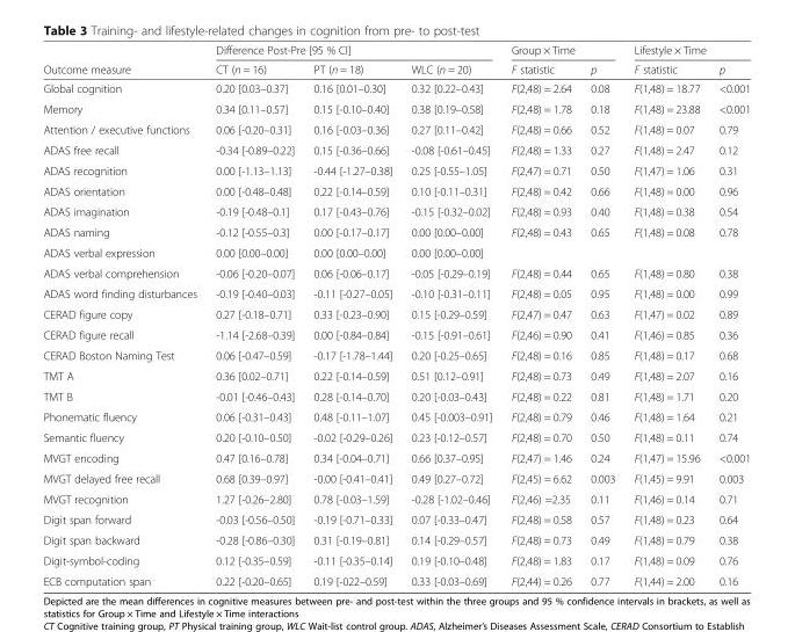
<table><thead><tr><td rowspan="2">Outcome measure</td><td colspan="3">Difference Post-Pre [95 % CI]</td><td colspan="2">Group × Time</td><td colspan="2">Lifestyle × Time</td></tr><tr><td>CT (n = 16)</td><td>PT (n = 18)</td><td>WLC (n = 20)</td><td>F statistic</td><td>p</td><td>F statistic</td><td>p</td></tr></thead><tbody><tr><td>Global cognition</td><td>0.20 [0.03–0.37]</td><td>0.16 [0.01–0.30]</td><td>0.32 [0.22–0.43]</td><td>F(2,48) = 2.64</td><td>0.08</td><td>F(1,48) = 18.77</td><td>&lt;0.001</td></tr><tr><td>Memory</td><td>0.34 [0.11–0.57]</td><td>0.15 [-0.10–0.40]</td><td>0.38 [0.19–0.58]</td><td>F(2,48) = 1.78</td><td>0.18</td><td>F(1,48) = 23.88</td><td>&lt;0.001</td></tr><tr><td>Attention / executive functions</td><td>0.06 [-0.20–0.31]</td><td>0.16 [-0.03–0.36]</td><td>0.27 [0.11–0.42]</td><td>F(2,48) = 0.66</td><td>0.52</td><td>F(1,48) = 0.07</td><td>0.79</td></tr><tr><td>ADAS free recall</td><td>-0.34 [-0.89–0.22]</td><td>0.15 [-0.36–0.66]</td><td>-0.08 [-0.61–0.45]</td><td>F(2,48) = 1.33</td><td>0.27</td><td>F(1,48) = 2.47</td><td>0.12</td></tr><tr><td>ADAS recognition</td><td>0.00 [-1.13–1.13]</td><td>-0.44 [-1.27–0.38]</td><td>0.25 [-0.55–1.05]</td><td>F(2,47) = 0.71</td><td>0.50</td><td>F(1,47) = 1.06</td><td>0.31</td></tr><tr><td>ADAS orientation</td><td>0.00 [-0.48–0.48]</td><td>0.22 [-0.14–0.59]</td><td>0.10 [-0.11–0.31]</td><td>F(2,48) = 0.42</td><td>0.66</td><td>F(1,48) = 0.00</td><td>0.96</td></tr><tr><td>ADAS imagination</td><td>-0.19 [-0.48–0.1]</td><td>0.17 [-0.43–0.76]</td><td>-0.15 [-0.32–0.02]</td><td>F(2,48) = 0.93</td><td>0.40</td><td>F(1,48) = 0.38</td><td>0.54</td></tr><tr><td>ADAS naming</td><td>-0.12 [-0.55–0.3]</td><td>0.00 [-0.17–0.17]</td><td>0.00 [0.00–0.00]</td><td>F(2,48) = 0.43</td><td>0.65</td><td>F(1,48) = 0.08</td><td>0.78</td></tr><tr><td>ADAS verbal expression</td><td>0.00 [0.00–0.00]</td><td>0.00 [0.00–0.00]</td><td>0.00 [0.00–0.00]</td><td></td><td></td><td></td><td></td></tr><tr><td>ADAS verbal comprehension</td><td>-0.06 [-0.20–0.07]</td><td>0.06 [-0.06–0.17]</td><td>-0.05 [-0.29–0.19]</td><td>F(2,48) = 0.44</td><td>0.65</td><td>F(1,48) = 0.80</td><td>0.38</td></tr><tr><td>ADAS word finding disturbances</td><td>-0.19 [-0.40–0.03]</td><td>-0.11 [-0.27–0.05]</td><td>-0.10 [-0.31–0.11]</td><td>F(2,48) = 0.05</td><td>0.95</td><td>F(1,48) = 0.00</td><td>0.99</td></tr><tr><td>CERAD figure copy</td><td>0.27 [-0.18–0.71]</td><td>0.33 [-0.23–0.90]</td><td>0.15 [-0.29–0.59]</td><td>F(2,47) = 0.47</td><td>0.63</td><td>F(1,47) = 0.02</td><td>0.89</td></tr><tr><td>CERAD figure recall</td><td>-1.14 [-2.68–0.39]</td><td>0.00 [-0.84–0.84]</td><td>-0.15 [-0.91–0.61]</td><td>F(2,46) = 0.90</td><td>0.41</td><td>F(1,46) = 0.85</td><td>0.36</td></tr><tr><td>CERAD Boston Naming Test</td><td>0.06 [-0.47–0.59]</td><td>-0.17 [-1.78–1.44]</td><td>0.20 [-0.25–0.65]</td><td>F(2,48) = 0.16</td><td>0.85</td><td>F(1,48) = 0.17</td><td>0.68</td></tr><tr><td>TMT A</td><td>0.36 [0.02–0.71]</td><td>0.22 [-0.14–0.59]</td><td>0.51 [0.12–0.91]</td><td>F(2,48) = 0.73</td><td>0.49</td><td>F(1,48) = 2.07</td><td>0.16</td></tr><tr><td>TMT B</td><td>-0.01 [-0.46–0.43]</td><td>0.28 [-0.14–0.70]</td><td>0.20 [-0.03–0.43]</td><td>F(2,48) = 0.22</td><td>0.81</td><td>F(1,48) = 1.71</td><td>0.20</td></tr><tr><td>Phonematic fluency</td><td>0.06 [-0.31–0.43]</td><td>0.48 [-0.11–1.07]</td><td>0.45 [-0.003–0.91]</td><td>F(2,48) = 0.79</td><td>0.46</td><td>F(1,48) = 1.64</td><td>0.21</td></tr><tr><td>Semantic fluency</td><td>0.20 [-0.10–0.50]</td><td>-0.02 [-0.29–0.26]</td><td>0.23 [-0.12–0.57]</td><td>F(2,48) = 0.70</td><td>0.50</td><td>F(1,48) = 0.11</td><td>0.74</td></tr><tr><td>MVGT encoding</td><td>0.47 [0.16–0.78]</td><td>0.34 [-0.04–0.71]</td><td>0.66 [0.37–0.95]</td><td>F(2,47) = 1.46</td><td>0.24</td><td>F(1,47) = 15.96</td><td>&lt;0.001</td></tr><tr><td>MVGT delayed free recall</td><td>0.68 [0.39–0.97]</td><td>-0.00 [-0.41–0.41]</td><td>0.49 [0.27–0.72]</td><td>F(2,45) = 6.62</td><td>0.003</td><td>F(1,45) = 9.91</td><td>0.003</td></tr><tr><td>MVGT recognition</td><td>1.27 [-0.26–2.80]</td><td>0.78 [-0.03–1.59]</td><td>-0.28 [-1.02–0.46]</td><td>F(2,46) =2.35</td><td>0.11</td><td>F(1,46) = 0.14</td><td>0.71</td></tr><tr><td>Digit span forward</td><td>-0.03 [-0.56–0.50]</td><td>-0.19 [-0.71–0.33]</td><td>0.07 [-0.33–0.47]</td><td>F(2,48) = 0.58</td><td>0.57</td><td>F(1,48) = 0.23</td><td>0.64</td></tr><tr><td>Digit span backward</td><td>-0.28 [-0.86–0.30]</td><td>0.31 [-0.19–0.81]</td><td>0.14 [-0.29–0.57]</td><td>F(2,48) = 0.73</td><td>0.49</td><td>F(1,48) = 0.79</td><td>0.38</td></tr><tr><td>Digit-symbol-coding</td><td>0.12 [-0.35–0.59]</td><td>-0.11 [-0.35–0.14]</td><td>0.19 [-0.10–0.48]</td><td>F(2,48) = 1.83</td><td>0.17</td><td>F(1,48) = 0.09</td><td>0.76</td></tr><tr><td>ECB computation span</td><td>0.22 [-0.20–0.65]</td><td>0.19 [-022–0.59]</td><td>0.33 [-0.03–0.69]</td><td>F(2,44) = 0.26</td><td>0.77</td><td>F(1,44) = 2.00</td><td>0.16</td></tr></tbody></table>